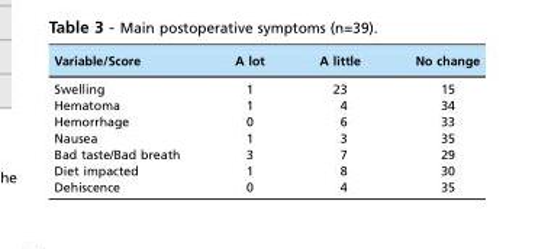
<table><thead><tr><td>Variable/Score</td><td>A lot</td><td>A little</td><td>No change</td></tr></thead><tbody><tr><td>Swelling</td><td>1</td><td>23</td><td>15</td></tr><tr><td>Hematoma</td><td>1</td><td>4</td><td>34</td></tr><tr><td>Hemorrhage</td><td>0</td><td>6</td><td>33</td></tr><tr><td>Nausea</td><td>1</td><td>3</td><td>35</td></tr><tr><td>Bad taste/Bad breath</td><td>3</td><td>7</td><td>29</td></tr><tr><td>Diet impacted</td><td>1</td><td>8</td><td>30</td></tr><tr><td>Dehiscence</td><td>0</td><td>4</td><td>35</td></tr></tbody></table>